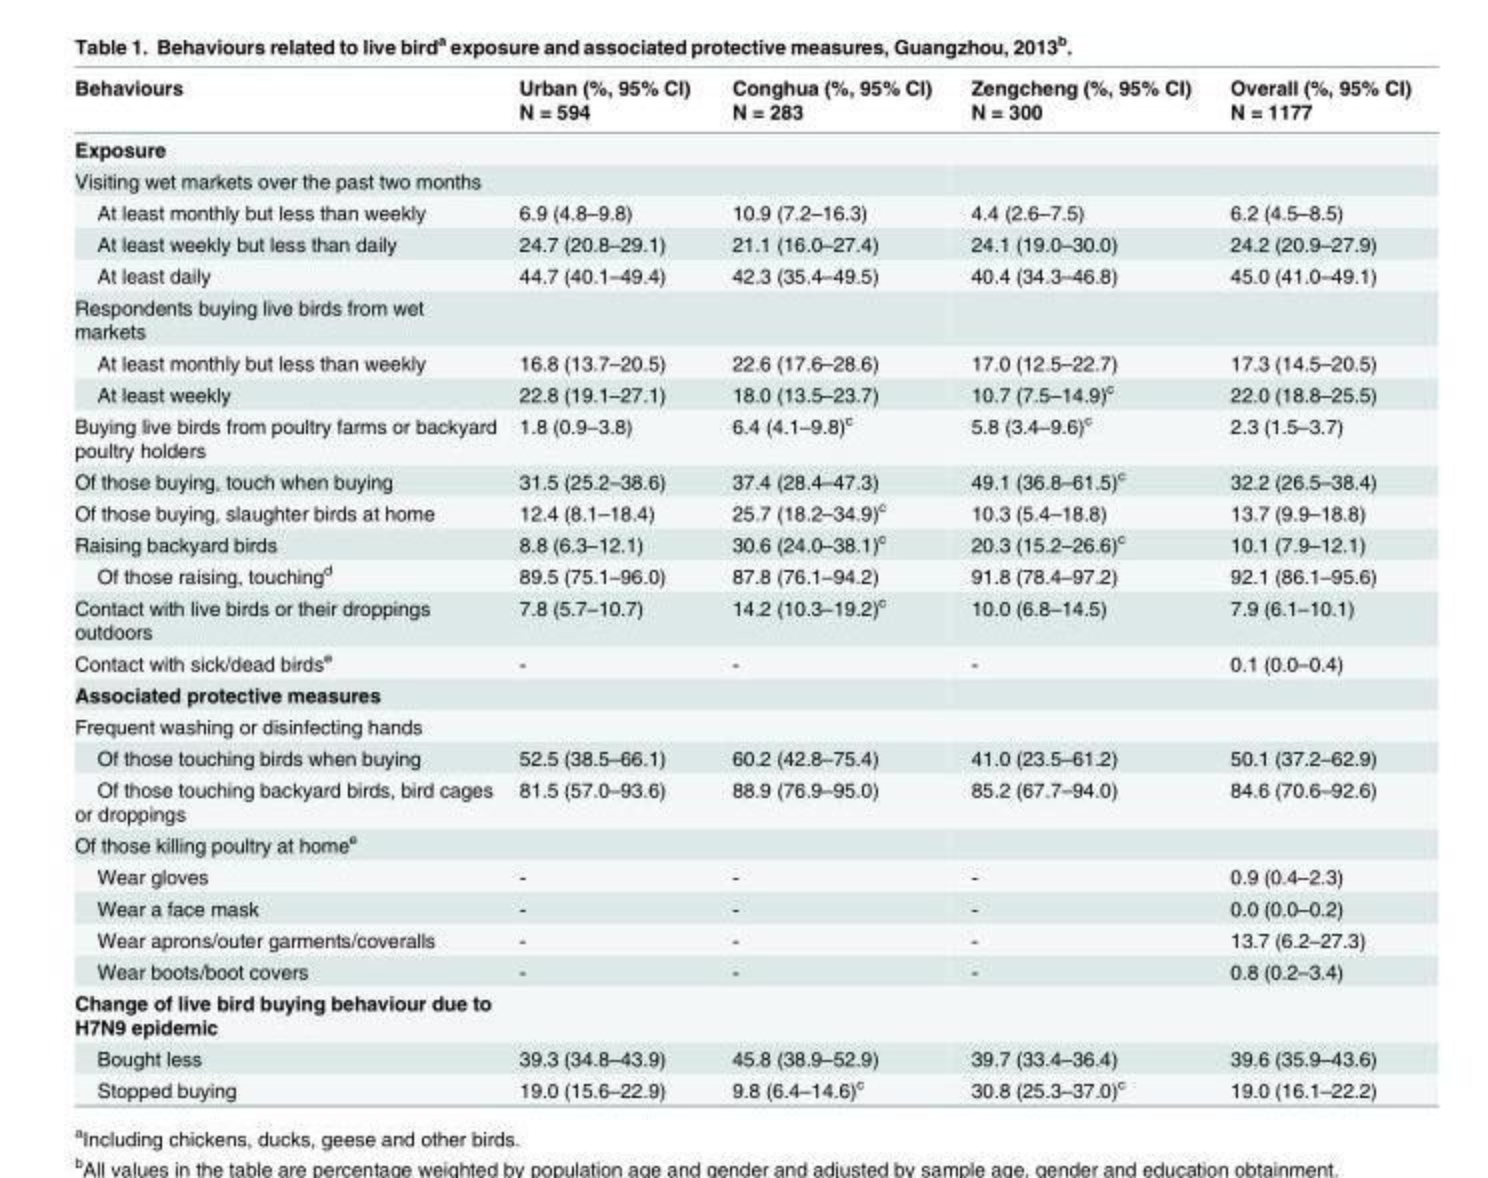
<table><thead><tr><td>Behaviours</td><td>Urban (%, 95% CI) N = 594</td><td>Conghua (%, 95% CI) N = 283</td><td>Zengcheng (%, 95% CI) N = 300</td><td>Overall (%, 95% CI) N = 1177</td></tr></thead><tbody><tr><td colspan="5">Exposure</td></tr><tr><td colspan="5">Visiting wet markets over the past two months</td></tr><tr><td>At least monthly but less than weekly</td><td>6.9 (4.8–9.8)</td><td>10.9 (7.2–16.3)</td><td>4.4 (2.6–7.5)</td><td>6.2 (4.5–8.5)</td></tr><tr><td>At least weekly but less than daily</td><td>24.7 (20.8–29.1)</td><td>21.1 (16.0–27.4)</td><td>24.1 (19.0–30.0)</td><td>24.2 (20.9–27.9)</td></tr><tr><td>At least daily</td><td>44.7 (40.1–49.4)</td><td>42.3 (35.4–49.5)</td><td>40.4 (34.3–46.8)</td><td>45.0 (41.0–49.1)</td></tr><tr><td colspan="5">Respondents buying live birds from wet markets</td></tr><tr><td>At least monthly but less than weekly</td><td>16.8 (13.7–20.5)</td><td>22.6 (17.6–28.6)</td><td>17.0 (12.5–22.7)</td><td>17.3 (14.5–20.5)</td></tr><tr><td>At least weekly</td><td>22.8 (19.1–27.1)</td><td>18.0 (13.5–23.7)</td><td>10.7 (7.5–14.9)<sup>c</sup></td><td>22.0 (18.8–25.5)</td></tr><tr><td>Buying live birds from poultry farms or backyard poultry holders</td><td>1.8 (0.9–3.8)</td><td>6.4 (4.1–9.8)<sup>c</sup></td><td>5.8 (3.4–9.6)<sup>c</sup></td><td>2.3 (1.5–3.7)</td></tr><tr><td>Of those buying, touch when buying</td><td>31.5 (25.2–38.6)</td><td>37.4 (28.4–47.3)</td><td>49.1 (36.8–61.5)<sup>c</sup></td><td>32.2 (26.5–38.4)</td></tr><tr><td>Of those buying, slaughter birds at home</td><td>12.4 (8.1–18.4)</td><td>25.7 (18.2–34.9)<sup>c</sup></td><td>10.3 (5.4–18.8)</td><td>13.7 (9.9–18.8)</td></tr><tr><td>Raising backyard birds</td><td>8.8 (6.3–12.1)</td><td>30.6 (24.0–38.1)<sup>c</sup></td><td>20.3 (15.2–26.6)<sup>c</sup></td><td>10.1 (7.9–12.1)</td></tr><tr><td>Of those raising, touching<sup>d</sup></td><td>89.5 (75.1–96.0)</td><td>87.8 (76.1–94.2)</td><td>91.8 (78.4–97.2)</td><td>92.1 (86.1–95.6)</td></tr><tr><td>Contact with live birds or their droppings outdoors</td><td>7.8 (5.7–10.7)</td><td>14.2 (10.3–19.2)<sup>c</sup></td><td>10.0 (6.8–14.5)</td><td>7.9 (6.1–10.1)</td></tr><tr><td>Contact with sick/dead birds<sup>e</sup></td><td>-</td><td>-</td><td>-</td><td>0.1 (0.0–0.4)</td></tr><tr><td colspan="5">Associated protective measures</td></tr><tr><td colspan="5">Frequent washing or disinfecting hands</td></tr><tr><td>Of those touching birds when buying</td><td>52.5 (38.5–66.1)</td><td>60.2 (42.8–75.4)</td><td>41.0 (23.5–61.2)</td><td>50.1 (37.2–62.9)</td></tr><tr><td>Of those touching backyard birds, bird cages or droppings</td><td>81.5 (57.0–93.6)</td><td>88.9 (76.9–95.0)</td><td>85.2 (67.7–94.0)</td><td>84.6 (70.6–92.6)</td></tr><tr><td colspan="5">Of those killing poultry at home<sup>e</sup></td></tr><tr><td>Wear gloves</td><td>-</td><td>-</td><td>-</td><td>0.9 (0.4–2.3)</td></tr><tr><td>Wear a face mask</td><td>-</td><td>-</td><td>-</td><td>0.0 (0.0–0.2)</td></tr><tr><td>Wear aprons/outer garments/coveralls</td><td>-</td><td>-</td><td>-</td><td>13.7 (6.2–27.3)</td></tr><tr><td>Wear boots/boot covers</td><td>-</td><td>-</td><td>-</td><td>0.8 (0.2–3.4)</td></tr><tr><td colspan="5">Change of live bird buying behaviour due to H7N9 epidemic</td></tr><tr><td>Bought less</td><td>39.3 (34.8–43.9)</td><td>45.8 (38.9–52.9)</td><td>39.7 (33.4–36.4)</td><td>39.6 (35.9–43.6)</td></tr><tr><td>Stopped buying</td><td>19.0 (15.6–22.9)</td><td>9.8 (6.4–14.6)<sup>c</sup></td><td>30.8 (25.3–37.0)<sup>c</sup></td><td>19.0 (16.1–22.2)</td></tr></tbody></table>